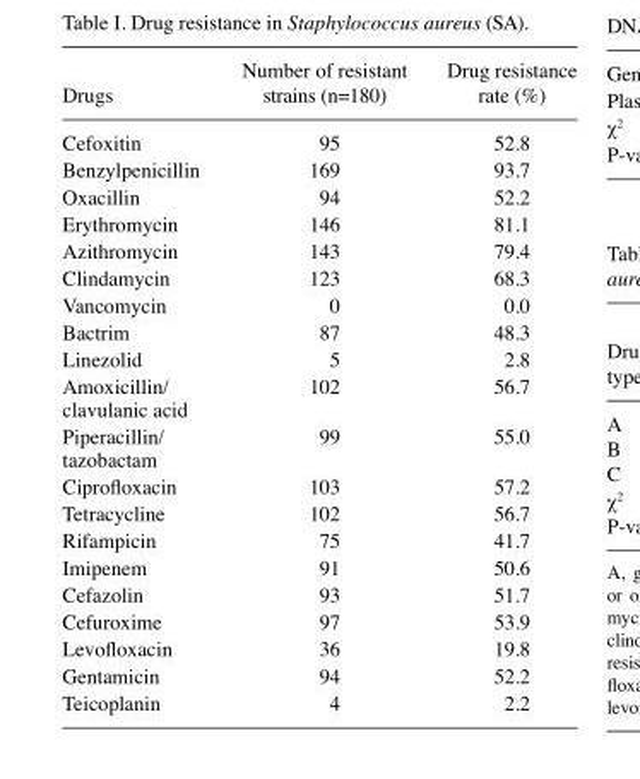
<table><thead><tr><td>Drugs</td><td>Number of resistant strains (n=180)</td><td>Drug resistance rate (%)</td></tr></thead><tbody><tr><td>Cefoxitin</td><td>95</td><td>52.8</td></tr><tr><td>Benzylpenicillin</td><td>169</td><td>93.7</td></tr><tr><td>Oxacillin</td><td>94</td><td>52.2</td></tr><tr><td>Erythromycin</td><td>146</td><td>81.1</td></tr><tr><td>Azithromycin</td><td>143</td><td>79.4</td></tr><tr><td>Clindamycin</td><td>123</td><td>68.3</td></tr><tr><td>Vancomycin</td><td>0</td><td>0.0</td></tr><tr><td>Bactrim</td><td>87</td><td>48.3</td></tr><tr><td>Linezolid</td><td>5</td><td>2.8</td></tr><tr><td>Amoxicillin/ clavulanic acid</td><td>102</td><td>56.7</td></tr><tr><td>Piperacillin/ tazobactam</td><td>99</td><td>55.0</td></tr><tr><td>Ciprofloxacin</td><td>103</td><td>57.2</td></tr><tr><td>Tetracycline</td><td>102</td><td>56.7</td></tr><tr><td>Rifampicin</td><td>75</td><td>41.7</td></tr><tr><td>Imipenem</td><td>91</td><td>50.6</td></tr><tr><td>Cefazolin</td><td>93</td><td>51.7</td></tr><tr><td>Cefuroxime</td><td>97</td><td>53.9</td></tr><tr><td>Levofloxacin</td><td>36</td><td>19.8</td></tr><tr><td>Gentamicin</td><td>94</td><td>52.2</td></tr><tr><td>Teicoplanin</td><td>4</td><td>2.2</td></tr></tbody></table>